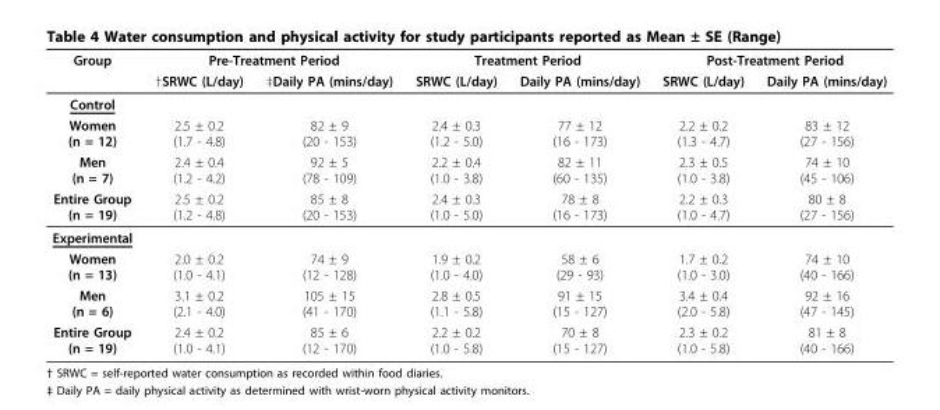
<table><thead><tr><td rowspan="2">Group</td><td colspan="2">Pre-Treatment Period</td><td colspan="2">Treatment Period</td><td colspan="2">Post-Treatment Period</td></tr><tr><td>†SRWC (L/day)</td><td>‡Daily PA (mins/day)</td><td>SRWC (L/day)</td><td>Daily PA (mins/day)</td><td>SRWC (L/day)</td><td>Daily PA (mins/day)</td></tr></thead><tbody><tr><td colspan="7">Control</td></tr><tr><td>Women (n = 12)</td><td>2.5 ± 0.2 (1.7 - 4.8)</td><td>82 ± 9 (20 - 153)</td><td>2.4 ± 0.3 (1.2 - 5.0)</td><td>77 ± 12 (16 - 173)</td><td>2.2 ± 0.2 (1.3 - 4.7)</td><td>83 ± 12 (27 - 156)</td></tr><tr><td>Men (n = 7)</td><td>2.4 ± 0.4 (1.2 - 4.2)</td><td>92 ± 5 (78 - 109)</td><td>2.2 ± 0.4 (1.0 - 3.8)</td><td>82 ± 11 (60 - 135)</td><td>2.3 ± 0.5 (1.0 - 3.8)</td><td>74 ± 10 (45 - 106)</td></tr><tr><td>Entire Group (n = 19)</td><td>2.5 ± 0.2 (1.2 - 4.8)</td><td>85 ± 8 (20 - 153)</td><td>2.4 ± 0.3 (1.0 - 5.0)</td><td>78 ± 8 (16 - 173)</td><td>2.2 ± 0.3 (1.0 - 4.7)</td><td>80 ± 8 (27 - 156)</td></tr><tr><td colspan="7">Experimental</td></tr><tr><td>Women (n = 13)</td><td>2.0 ± 0.2 (1.0 - 4.1)</td><td>74 ± 9 (12 - 128)</td><td>1.9 ± 0.2 (1.0 - 4.0)</td><td>58 ± 6 (29 - 93)</td><td>1.7 ± 0.2 (1.0 - 3.0)</td><td>74 ± 10 (40 - 166)</td></tr><tr><td>Men (n = 6)</td><td>3.1 ± 0.2 (2.1 - 4.0)</td><td>105 ± 15 (41 - 170)</td><td>2.8 ± 0.5 (1.1 - 5.8)</td><td>91 ± 15 (15 - 127)</td><td>3.4 ± 0.4 (2.0 - 5.8)</td><td>92 ± 16 (47 - 145)</td></tr><tr><td>Entire Group (n = 19)</td><td>2.4 ± 0.2 (1.0 - 4.1)</td><td>85 ± 6 (12 - 170)</td><td>2.2 ± 0.2 (1.0 - 5.8)</td><td>70 ± 8 (15 - 127)</td><td>2.3 ± 0.2 (1.0 - 5.8)</td><td>81 ± 8 (40 - 166)</td></tr></tbody></table>